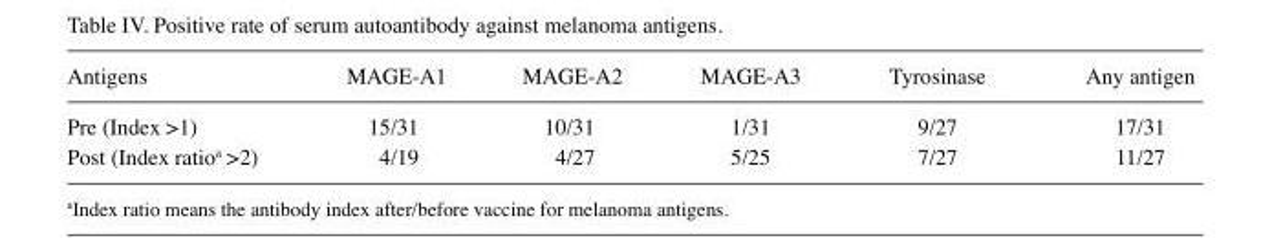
<table><thead><tr><td>Antigens</td><td>MAGE-A1</td><td>MAGE-A2</td><td>MAGE-A3</td><td>Tyrosinase</td><td>Any antigen</td></tr></thead><tbody><tr><td>Pre (Index &gt;1)</td><td>15/31</td><td>10/31</td><td>1/31</td><td>9/27</td><td>17/31</td></tr><tr><td>Post (Index ratio<sup>a</sup> &gt;2)</td><td>4/19</td><td>4/27</td><td>5/25</td><td>7/27</td><td>11/27</td></tr></tbody></table>